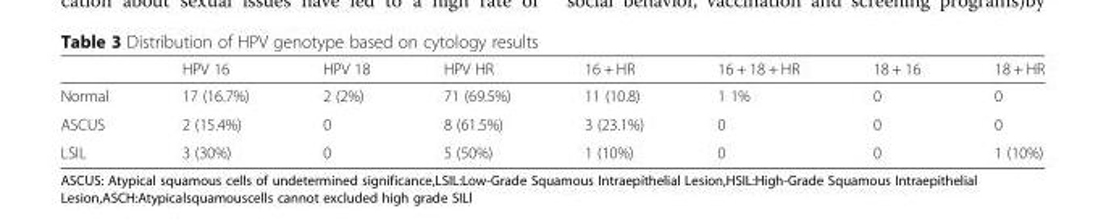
<table><thead><tr><td></td><td>HPV 16</td><td>HPV 18</td><td>HPV HR</td><td>16 + HR</td><td>16 + 18 + HR</td><td>18 + 16</td><td>18 + HR</td></tr></thead><tbody><tr><td>Normal</td><td>17 (16.7%)</td><td>2 (2%)</td><td>71 (69.5%)</td><td>11 (10.8)</td><td>1 1%</td><td>0</td><td>0</td></tr><tr><td>ASCUS</td><td>2 (15.4%)</td><td>0</td><td>8 (61.5%)</td><td>3 (23.1%)</td><td>0</td><td>0</td><td>0</td></tr><tr><td>LSIL</td><td>3 (30%)</td><td>0</td><td>5 (50%)</td><td>1 (10%)</td><td>0</td><td>0</td><td>1 (10%)</td></tr></tbody></table>